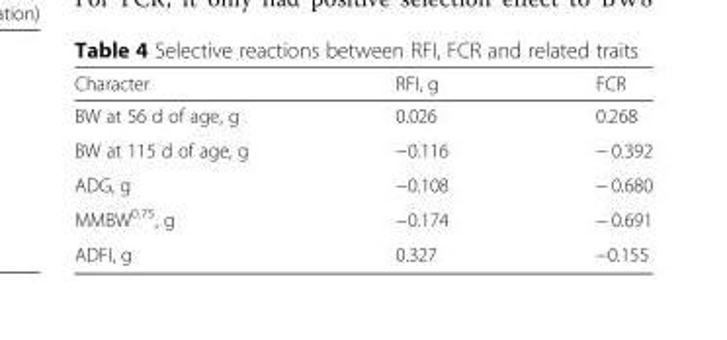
<table><thead><tr><td>Character</td><td>RFI, g</td><td>FCR</td></tr></thead><tbody><tr><td>BW at 56 d of age, g</td><td>0.026</td><td>0.268</td></tr><tr><td>BW at 115 d of age, g</td><td>−0.116</td><td>− 0.392</td></tr><tr><td>ADG, g</td><td>−0.108</td><td>− 0.680</td></tr><tr><td>MMBW<sup>0.75</sup>, g</td><td>−0.174</td><td>− 0.691</td></tr><tr><td>ADFI, g</td><td>0.327</td><td>−0.155</td></tr></tbody></table>